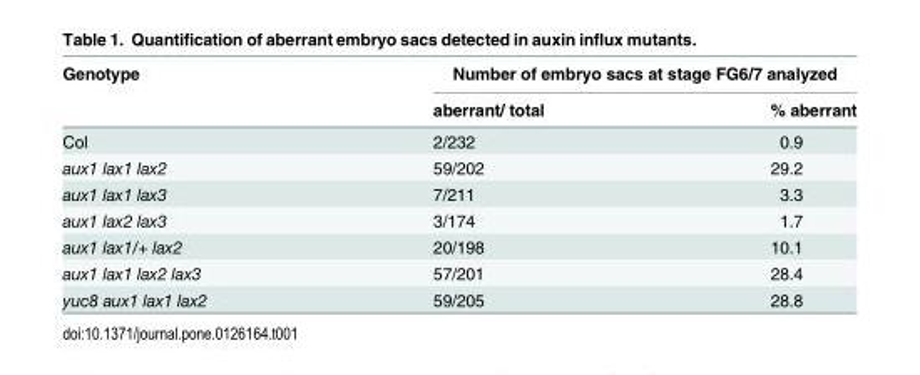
<table><thead><tr><td rowspan="2">Genotype</td><td colspan="2">Number of embryo sacs at stage FG6/7 analyzed</td></tr><tr><td>aberrant/ total</td><td>% aberrant</td></tr></thead><tbody><tr><td>Col</td><td>2/232</td><td>0.9</td></tr><tr><td>aux1 lax1 lax2</td><td>59/202</td><td>29.2</td></tr><tr><td>aux1 lax1 lax3</td><td>7/211</td><td>3.3</td></tr><tr><td>aux1 lax2 lax3</td><td>3/174</td><td>1.7</td></tr><tr><td>aux1 lax1/+ lax2</td><td>20/198</td><td>10.1</td></tr><tr><td>aux1 lax1 lax2 lax3</td><td>57/201</td><td>28.4</td></tr><tr><td>yuc8 aux1 lax1 lax2</td><td>59/205</td><td>28.8</td></tr></tbody></table>